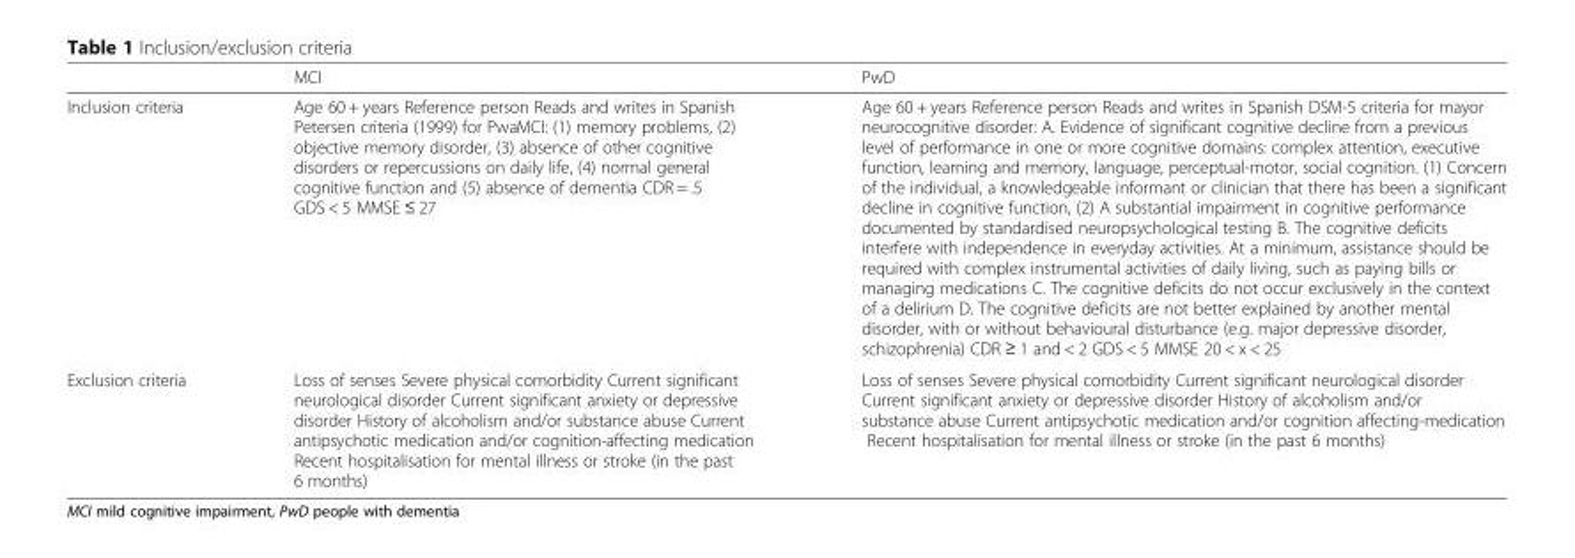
<table><thead><tr><td></td><td>MCI</td><td>PwD</td></tr></thead><tbody><tr><td>Inclusion criteria</td><td>Age 60 + years Reference person Reads and writes in Spanish Petersen criteria (1999) for PwaMCI: (1) memory problems, (2) objective memory disorder, (3) absence of other cognitive disorders or repercussions on daily life, (4) normal general cognitive function and (5) absence of dementia CDR = .5 GDS &lt; 5 MMSE ≤ 27</td><td>Age 60 + years Reference person Reads and writes in Spanish DSM-5 criteria for mayor neurocognitive disorder: A. Evidence of significant cognitive decline from a previous level of performance in one or more cognitive domains: complex attention, executive function, learning and memory, language, perceptual-motor, social cognition. (1) Concern of the individual, a knowledgeable informant or clinician that there has been a significant decline in cognitive function, (2) A substantial impairment in cognitive performance documented by standardised neuropsychological testing B. The cognitive deficits interfere with independence in everyday activities. At a minimum, assistance should be required with complex instrumental activities of daily living, such as paying bills or managing medications C. The cognitive deficits do not occur exclusively in the context of a delirium D. The cognitive deficits are not better explained by another mental disorder, with or without behavioural disturbance (e.g. major depressive disorder, schizophrenia) CDR ≥ 1 and &lt; 2 GDS &lt; 5 MMSE 20 &lt; x &lt; 25</td></tr><tr><td>Exclusion criteria</td><td>Loss of senses Severe physical comorbidity Current significant neurological disorder Current significant anxiety or depressive disorder History of alcoholism and/or substance abuse Current antipsychotic medication and/or cognition-affecting medication Recent hospitalisation for mental illness or stroke (in the past 6 months)</td><td>Loss of senses Severe physical comorbidity Current significant neurological disorder Current significant anxiety or depressive disorder History of alcoholism and/or substance abuse Current antipsychotic medication and/or cognition affecting-medication Recent hospitalisation for mental illness or stroke (in the past 6 months)</td></tr></tbody></table>